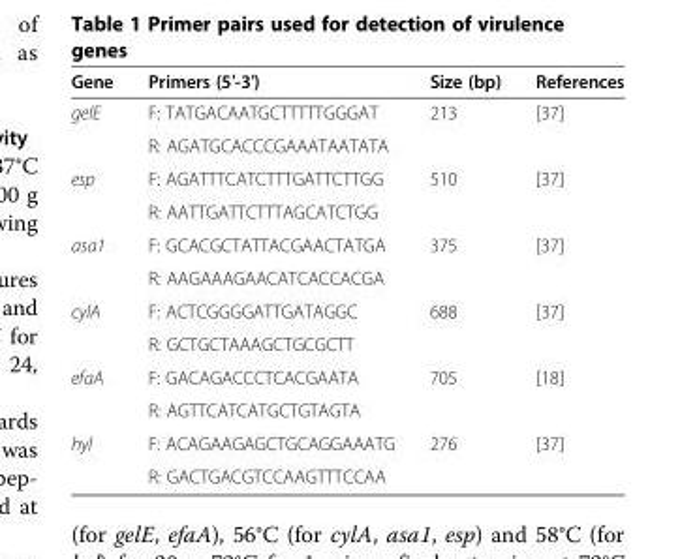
<table><thead><tr><td>Gene</td><td>Primers (5′-3′)</td><td>Size (bp)</td><td>References</td></tr></thead><tbody><tr><td rowspan="2">gelE</td><td>F: TATGACAATGCTTTTTGGGAT</td><td>213</td><td>[37]</td></tr><tr><td>R: AGATGCACCCGAAATAATATA</td><td></td><td></td></tr><tr><td rowspan="2">esp</td><td>F: AGATTTCATCTTTGATTCTTGG</td><td>510</td><td>[37]</td></tr><tr><td>R: AATTGATTCTTTAGCATCTGG</td><td></td><td></td></tr><tr><td rowspan="2">asa1</td><td>F: GCACGCTATTACGAACTATGA</td><td>375</td><td>[37]</td></tr><tr><td>R: AAGAAAGAACATCACCACGA</td><td></td><td></td></tr><tr><td rowspan="2">cylA</td><td>F: ACTCGGGGATTGATAGGC</td><td>688</td><td>[37]</td></tr><tr><td>R: GCTGCTAAAGCTGCGCTT</td><td></td><td></td></tr><tr><td rowspan="2">efaA</td><td>F: GACAGACCCTCACGAATA</td><td>705</td><td>[18]</td></tr><tr><td>R: AGTTCATCATGCTGTAGTA</td><td></td><td></td></tr><tr><td rowspan="2">hyl</td><td>F: ACAGAAGAGCTGCAGGAAATG</td><td>276</td><td>[37]</td></tr><tr><td>R: GACTGACGTCCAAGTTTCCAA</td><td></td><td></td></tr></tbody></table>